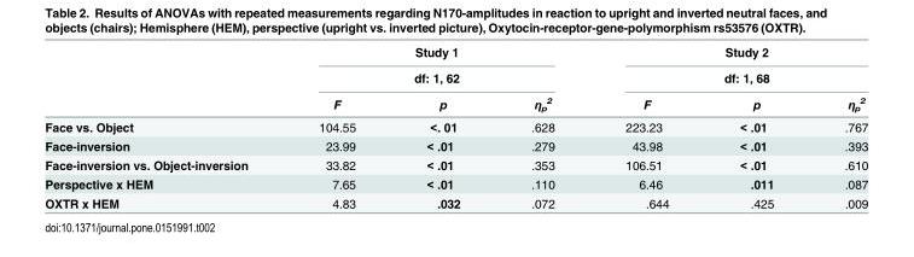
<table><thead><tr><td rowspan="3"></td><td rowspan="2" colspan="3">Study 1 df: 1, 62</td><td rowspan="2" colspan="3">Study 2 df: 1, 68</td></tr><tr></tr><tr><td>F</td><td>p</td><td>η<sub>p</sub> <sup>2</sup></td><td>F</td><td>p</td><td>η<sub>p</sub> <sup>2</sup></td></tr></thead><tbody><tr><td>Face vs. Object</td><td>104.55</td><td>&lt;. 01</td><td>.628</td><td>223.23</td><td>&lt; .01</td><td>.767</td></tr><tr><td>Face-inversion</td><td>23.99</td><td>&lt; .01</td><td>.279</td><td>43.98</td><td>&lt; .01</td><td>.393</td></tr><tr><td>Face-inversion vs. Object-inversion</td><td>33.82</td><td>&lt; .01</td><td>.353</td><td>106.51</td><td>&lt; .01</td><td>.610</td></tr><tr><td>Perspective x HEM</td><td>7.65</td><td>&lt; .01</td><td>.110</td><td>6.46</td><td>.011</td><td>.087</td></tr><tr><td>OXTR x HEM</td><td>4.83</td><td>.032</td><td>.072</td><td>.644</td><td>.425</td><td>.009</td></tr></tbody></table>